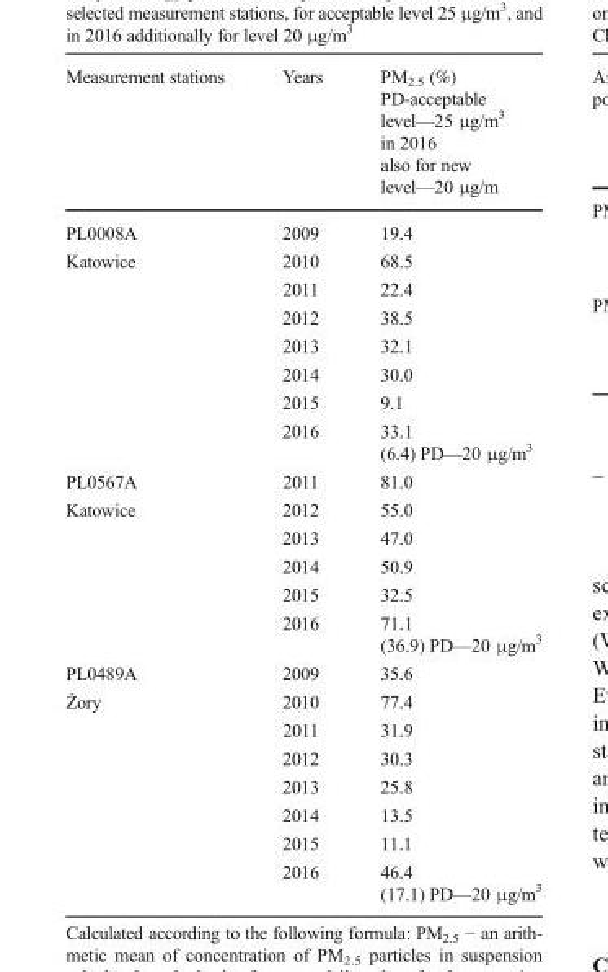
<table><thead><tr><td>Measurement stations</td><td>Years</td><td>PM<sub>2.5</sub> (%) PD-acceptable level—25 μg/m<sup>3</sup> in 2016 also for new level—20 μg/m</td></tr></thead><tbody><tr><td>PL0008A</td><td>2009</td><td>19.4</td></tr><tr><td rowspan="7">Katowice</td><td>2010</td><td>68.5</td></tr><tr><td>2011</td><td>22.4</td></tr><tr><td>2012</td><td>38.5</td></tr><tr><td>2013</td><td>32.1</td></tr><tr><td>2014</td><td>30.0</td></tr><tr><td>2015</td><td>9.1</td></tr><tr><td>2016</td><td>33.1 (6.4) PD—20 μg/m<sup>3</sup></td></tr><tr><td>PL0567A</td><td>2011</td><td>81.0</td></tr><tr><td rowspan="5">Katowice</td><td>2012</td><td>55.0</td></tr><tr><td>2013</td><td>47.0</td></tr><tr><td>2014</td><td>50.9</td></tr><tr><td>2015</td><td>32.5</td></tr><tr><td>2016</td><td>71.1 (36.9) PD—20 μg/m<sup>3</sup></td></tr><tr><td>PL0489A</td><td>2009</td><td>35.6</td></tr><tr><td rowspan="7">Żory</td><td>2010</td><td>77.4</td></tr><tr><td>2011</td><td>31.9</td></tr><tr><td>2012</td><td>30.3</td></tr><tr><td>2013</td><td>25.8</td></tr><tr><td>2014</td><td>13.5</td></tr><tr><td>2015</td><td>11.1</td></tr><tr><td>2016</td><td>46.4 (17.1) PD—20 μg/m<sup>3</sup></td></tr></tbody></table>